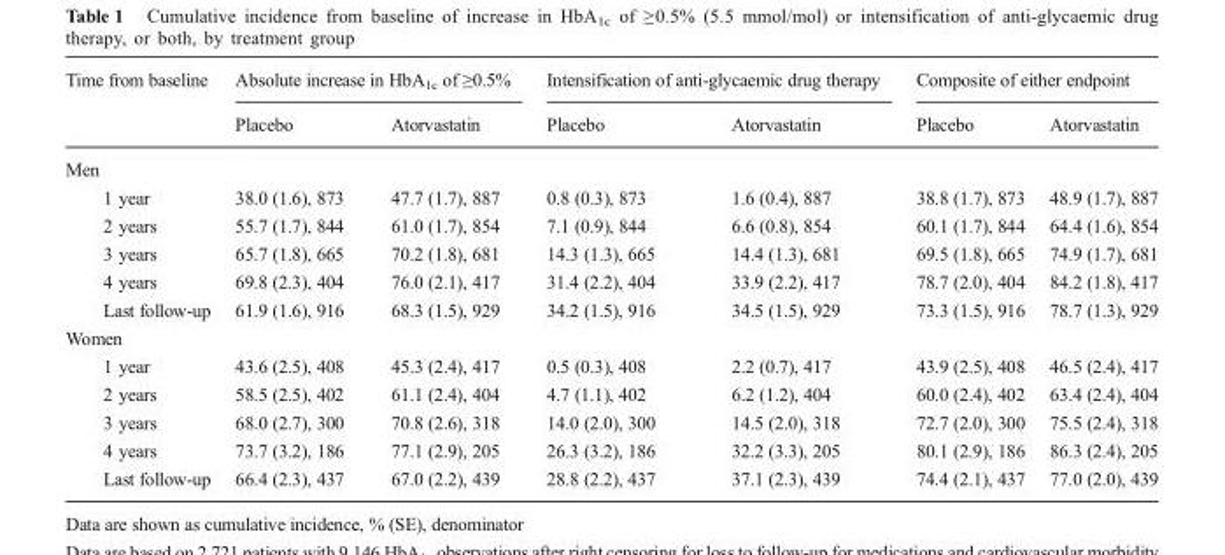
<table><thead><tr><td rowspan="2">Time from baseline</td><td colspan="2">Absolute increase in HbA<sub>1c</sub> of ≥0.5%</td><td colspan="2">Intensification of anti-glycaemic drug therapy</td><td colspan="2">Composite of either endpoint</td></tr><tr><td>Placebo</td><td>Atorvastatin</td><td>Placebo</td><td>Atorvastatin</td><td>Placebo</td><td>Atorvastatin</td></tr></thead><tbody><tr><td colspan="7">Men</td></tr><tr><td>1 year</td><td>38.0 (1.6), 873</td><td>47.7 (1.7), 887</td><td>0.8 (0.3), 873</td><td>1.6 (0.4), 887</td><td>38.8 (1.7), 873</td><td>48.9 (1.7), 887</td></tr><tr><td>2 years</td><td>55.7 (1.7), 844</td><td>61.0 (1.7), 854</td><td>7.1 (0.9), 844</td><td>6.6 (0.8), 854</td><td>60.1 (1.7), 844</td><td>64.4 (1.6), 854</td></tr><tr><td>3 years</td><td>65.7 (1.8), 665</td><td>70.2 (1.8), 681</td><td>14.3 (1.3), 665</td><td>14.4 (1.3), 681</td><td>69.5 (1.8), 665</td><td>74.9 (1.7), 681</td></tr><tr><td>4 years</td><td>69.8 (2.3), 404</td><td>76.0 (2.1), 417</td><td>31.4 (2.2), 404</td><td>33.9 (2.2), 417</td><td>78.7 (2.0), 404</td><td>84.2 (1.8), 417</td></tr><tr><td>Last follow-up</td><td>61.9 (1.6), 916</td><td>68.3 (1.5), 929</td><td>34.2 (1.5), 916</td><td>34.5 (1.5), 929</td><td>73.3 (1.5), 916</td><td>78.7 (1.3), 929</td></tr><tr><td colspan="7">Women</td></tr><tr><td>1 year</td><td>43.6 (2.5), 408</td><td>45.3 (2.4), 417</td><td>0.5 (0.3), 408</td><td>2.2 (0.7), 417</td><td>43.9 (2.5), 408</td><td>46.5 (2.4), 417</td></tr><tr><td>2 years</td><td>58.5 (2.5), 402</td><td>61.1 (2.4), 404</td><td>4.7 (1.1), 402</td><td>6.2 (1.2), 404</td><td>60.0 (2.4), 402</td><td>63.4 (2.4), 404</td></tr><tr><td>3 years</td><td>68.0 (2.7), 300</td><td>70.8 (2.6), 318</td><td>14.0 (2.0), 300</td><td>14.5 (2.0), 318</td><td>72.7 (2.0), 300</td><td>75.5 (2.4), 318</td></tr><tr><td>4 years</td><td>73.7 (3.2), 186</td><td>77.1 (2.9), 205</td><td>26.3 (3.2), 186</td><td>32.2 (3.3), 205</td><td>80.1 (2.9), 186</td><td>86.3 (2.4), 205</td></tr><tr><td>Last follow-up</td><td>66.4 (2.3), 437</td><td>67.0 (2.2), 439</td><td>28.8 (2.2), 437</td><td>37.1 (2.3), 439</td><td>74.4 (2.1), 437</td><td>77.0 (2.0), 439</td></tr></tbody></table>